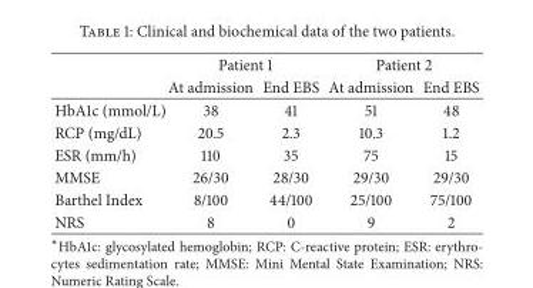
<table><thead><tr><td rowspan="2"></td><td colspan="2">Patient 1</td><td colspan="2">Patient 2</td></tr><tr><td>At admission</td><td>End EBS</td><td>At admission</td><td>End EBS</td></tr></thead><tbody><tr><td>HbA1c (mmol/L)</td><td>38</td><td>41</td><td>51</td><td>48</td></tr><tr><td>RCP (mg/dL)</td><td>20.5</td><td>2.3</td><td>10.3</td><td>1.2</td></tr><tr><td>ESR (mm/h)</td><td>110</td><td>35</td><td>75</td><td>15</td></tr><tr><td>MMSE</td><td>26/30</td><td>28/30</td><td>29/30</td><td>29/30</td></tr><tr><td>Barthel Index</td><td>8/100</td><td>44/100</td><td>25/100</td><td>75/100</td></tr><tr><td>NRS</td><td>8</td><td>0</td><td>9</td><td>2</td></tr></tbody></table>